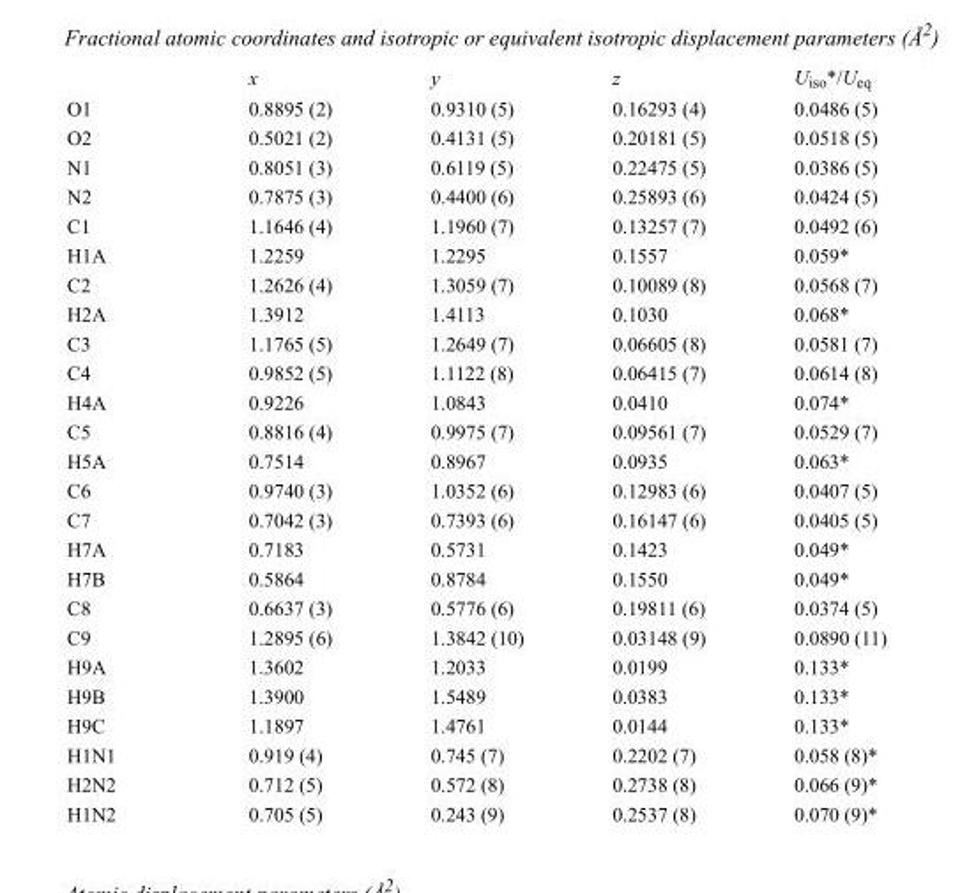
<table><thead><tr><td></td><td>x</td><td>y</td><td>z</td><td>U<sub>iso</sub>*/U<sub>eq</sub></td></tr></thead><tbody><tr><td>O1</td><td>0.8895 (2)</td><td>0.9310 (5)</td><td>0.16293 (4)</td><td>0.0486 (5)</td></tr><tr><td>O2</td><td>0.5021 (2)</td><td>0.4131 (5)</td><td>0.20181 (5)</td><td>0.0518 (5)</td></tr><tr><td>N1</td><td>0.8051 (3)</td><td>0.6119 (5)</td><td>0.22475 (5)</td><td>0.0386 (5)</td></tr><tr><td>N2</td><td>0.7875 (3)</td><td>0.4400 (6)</td><td>0.25893 (6)</td><td>0.0424 (5)</td></tr><tr><td>C1</td><td>1.1646 (4)</td><td>1.1960 (7)</td><td>0.13257 (7)</td><td>0.0492 (6)</td></tr><tr><td>H1A</td><td>1.2259</td><td>1.2295</td><td>0.1557</td><td>0.059*</td></tr><tr><td>C2</td><td>1.2626 (4)</td><td>1.3059 (7)</td><td>0.10089 (8)</td><td>0.0568 (7)</td></tr><tr><td>H2A</td><td>1.3912</td><td>1.4113</td><td>0.1030</td><td>0.068*</td></tr><tr><td>C3</td><td>1.1765 (5)</td><td>1.2649 (7)</td><td>0.06605 (8)</td><td>0.0581 (7)</td></tr><tr><td>C4</td><td>0.9852 (5)</td><td>1.1122 (8)</td><td>0.06415 (7)</td><td>0.0614 (8)</td></tr><tr><td>H4A</td><td>0.9226</td><td>1.0843</td><td>0.0410</td><td>0.074*</td></tr><tr><td>C5</td><td>0.8816 (4)</td><td>0.9975 (7)</td><td>0.09561 (7)</td><td>0.0529 (7)</td></tr><tr><td>H5A</td><td>0.7514</td><td>0.8967</td><td>0.0935</td><td>0.063*</td></tr><tr><td>C6</td><td>0.9740 (3)</td><td>1.0352 (6)</td><td>0.12983 (6)</td><td>0.0407 (5)</td></tr><tr><td>C7</td><td>0.7042 (3)</td><td>0.7393 (6)</td><td>0.16147 (6)</td><td>0.0405 (5)</td></tr><tr><td>H7A</td><td>0.7183</td><td>0.5731</td><td>0.1423</td><td>0.049*</td></tr><tr><td>H7B</td><td>0.5864</td><td>0.8784</td><td>0.1550</td><td>0.049*</td></tr><tr><td>C8</td><td>0.6637 (3)</td><td>0.5776 (6)</td><td>0.19811 (6)</td><td>0.0374 (5)</td></tr><tr><td>C9</td><td>1.2895 (6)</td><td>1.3842 (10)</td><td>0.03148 (9)</td><td>0.0890 (11)</td></tr><tr><td>H9A</td><td>1.3602</td><td>1.2033</td><td>0.0199</td><td>0.133*</td></tr><tr><td>H9B</td><td>1.3900</td><td>1.5489</td><td>0.0383</td><td>0.133*</td></tr><tr><td>H9C</td><td>1.1897</td><td>1.4761</td><td>0.0144</td><td>0.133*</td></tr><tr><td>H1N1</td><td>0.919 (4)</td><td>0.745 (7)</td><td>0.2202 (7)</td><td>0.058 (8)*</td></tr><tr><td>H2N2</td><td>0.712 (5)</td><td>0.572 (8)</td><td>0.2738 (8)</td><td>0.066 (9)*</td></tr><tr><td>H1N2</td><td>0.705 (5)</td><td>0.243 (9)</td><td>0.2537 (8)</td><td>0.070 (9)*</td></tr></tbody></table>